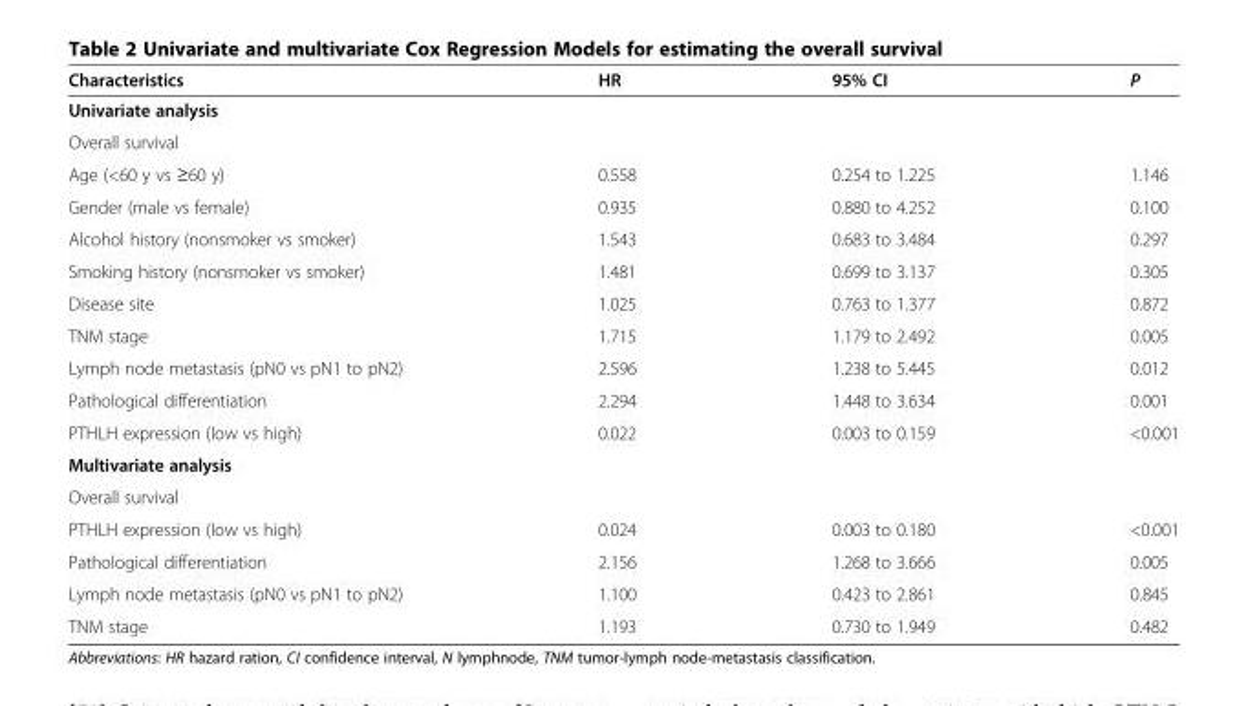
<table><thead><tr><td>Characteristics</td><td>HR</td><td>95% CI</td><td>P</td></tr></thead><tbody><tr><td colspan="4">Univariate analysis</td></tr><tr><td colspan="4">Overall survival</td></tr><tr><td>Age (&lt;60 y vs ≥60 y)</td><td>0.558</td><td>0.254 to 1.225</td><td>1.146</td></tr><tr><td>Gender (male vs female)</td><td>0.935</td><td>0.880 to 4.252</td><td>0.100</td></tr><tr><td>Alcohol history (nonsmoker vs smoker)</td><td>1.543</td><td>0.683 to 3.484</td><td>0.297</td></tr><tr><td>Smoking history (nonsmoker vs smoker)</td><td>1.481</td><td>0.699 to 3.137</td><td>0.305</td></tr><tr><td>Disease site</td><td>1.025</td><td>0.763 to 1.377</td><td>0.872</td></tr><tr><td>TNM stage</td><td>1.715</td><td>1.179 to 2.492</td><td>0.005</td></tr><tr><td>Lymph node metastasis (pN0 vs pN1 to pN2)</td><td>2.596</td><td>1.238 to 5.445</td><td>0.012</td></tr><tr><td>Pathological differentiation</td><td>2.294</td><td>1.448 to 3.634</td><td>0.001</td></tr><tr><td>PTHLH expression (low vs high)</td><td>0.022</td><td>0.003 to 0.159</td><td>&lt;0.001</td></tr><tr><td colspan="4">Multivariate analysis</td></tr><tr><td colspan="4">Overall survival</td></tr><tr><td>PTHLH expression (low vs high)</td><td>0.024</td><td>0.003 to 0.180</td><td>&lt;0.001</td></tr><tr><td>Pathological differentiation</td><td>2.156</td><td>1.268 to 3.666</td><td>0.005</td></tr><tr><td>Lymph node metastasis (pN0 vs pN1 to pN2)</td><td>1.100</td><td>0.423 to 2.861</td><td>0.845</td></tr><tr><td>TNM stage</td><td>1.193</td><td>0.730 to 1.949</td><td>0.482</td></tr></tbody></table>